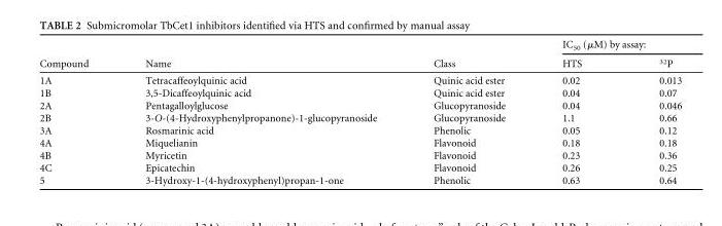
<table><thead><tr><td rowspan="2">Compound</td><td rowspan="2">Name</td><td rowspan="2">Class</td><td colspan="2">IC<sub>50</sub> (µM) by assay:</td></tr><tr><td>HTS</td><td><sup>32</sup>P</td></tr></thead><tbody><tr><td>1A</td><td>Tetracaffeoylquinic acid</td><td>Quinic acid ester</td><td>0.02</td><td>0.013</td></tr><tr><td>1B</td><td>3,5-Dicaffeoylquinic acid</td><td>Quinic acid ester</td><td>0.04</td><td>0.07</td></tr><tr><td>2A</td><td>Pentagalloylglucose</td><td>Glucopyranoside</td><td>0.04</td><td>0.046</td></tr><tr><td>2B</td><td>3-O-(4-Hydroxyphenylpropanone)-1-glucopyranoside</td><td>Glucopyranoside</td><td>1.1</td><td>0.66</td></tr><tr><td>3A</td><td>Rosmarinic acid</td><td>Phenolic</td><td>0.05</td><td>0.12</td></tr><tr><td>4A</td><td>Miquelianin</td><td>Flavonoid</td><td>0.18</td><td>0.18</td></tr><tr><td>4B</td><td>Myricetin</td><td>Flavonoid</td><td>0.23</td><td>0.36</td></tr><tr><td>4C</td><td>Epicatechin</td><td>Flavonoid</td><td>0.26</td><td>0.25</td></tr><tr><td>5</td><td>3-Hydroxy-1-(4-hydroxyphenyl)propan-1-one</td><td>Phenolic</td><td>0.63</td><td>0.64</td></tr></tbody></table>